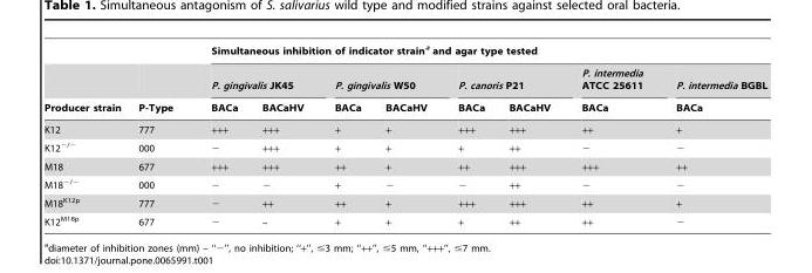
<table><thead><tr><td rowspan="3">Producer strain</td><td rowspan="3">P-Type</td><td colspan="8">Simultaneous inhibition of indicator strain<sup>a</sup> and agar type tested</td></tr><tr><td colspan="2">P. gingivalis JK45</td><td colspan="2">P. gingivalis W50</td><td colspan="2">P. canoris P21</td><td rowspan="2">P. intermedia ATCC 25611 BACa</td><td rowspan="2">P. intermedia BGBL BACa</td></tr><tr><td>BACa</td><td>BACaHV</td><td>BACa</td><td>BACaHV</td><td>BACa</td><td>BACaHV</td></tr></thead><tbody><tr><td>K12</td><td>777</td><td>+++</td><td>+++</td><td>+</td><td>+</td><td>+++</td><td>+++</td><td>++</td><td>+</td></tr><tr><td>K12<sup>−/−</sup></td><td>000</td><td>−</td><td>+++</td><td>+</td><td>+</td><td>+</td><td>++</td><td>−</td><td>−</td></tr><tr><td>M18</td><td>677</td><td>+++</td><td>+++</td><td>++</td><td>+</td><td>++</td><td>+++</td><td>+++</td><td>++</td></tr><tr><td>M18<sup>−/−</sup></td><td>000</td><td>−</td><td>−</td><td>+</td><td>−</td><td>−</td><td>++</td><td>−</td><td>−</td></tr><tr><td>M18<sup>K12p</sup></td><td>777</td><td>−</td><td>++</td><td>++</td><td>+</td><td>+++</td><td>+++</td><td>++</td><td>+</td></tr><tr><td>K12<sup>M18p</sup></td><td>677</td><td>−</td><td>–</td><td>+</td><td>+</td><td>+</td><td>++</td><td>++</td><td>−</td></tr></tbody></table>